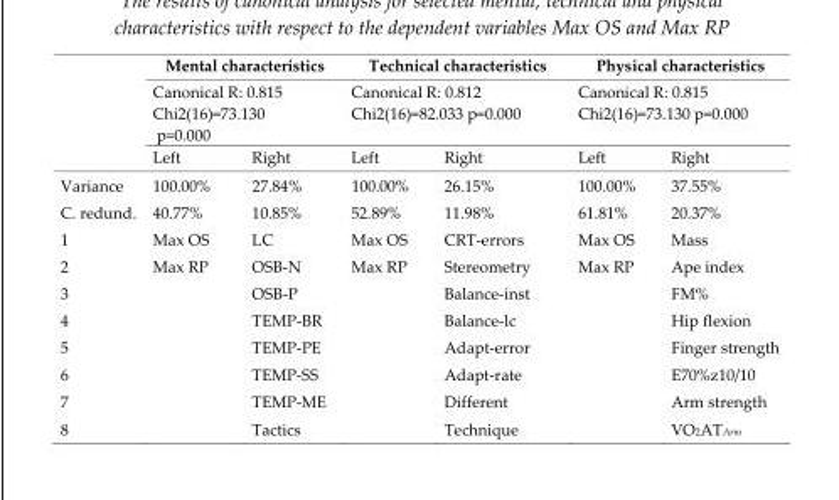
<table><thead><tr><td rowspan="3"></td><td rowspan="2" colspan="2">Mental characteristics Canonical R: 0.815 Chi2(16)=73.130 p=0.000</td><td rowspan="2" colspan="2">Technical characteristics Canonical R: 0.812 Chi2(16)=82.033 p=0.000</td><td rowspan="2" colspan="2">Physical characteristics Canonical R: 0.815 Chi2(16)=73.130 p=0.000</td></tr><tr></tr><tr><td>Left</td><td>Right</td><td>Left</td><td>Right</td><td>Left</td><td>Right</td></tr></thead><tbody><tr><td>Variance</td><td>100.00%</td><td>27.84%</td><td>100.00%</td><td>26.15%</td><td>100.00%</td><td>37.55%</td></tr><tr><td>C. redund.</td><td>40.77%</td><td>10.85%</td><td>52.89%</td><td>11.98%</td><td>61.81%</td><td>20.37%</td></tr><tr><td>1</td><td>Max OS</td><td>LC</td><td>Max OS</td><td>CRT-errors</td><td>Max OS</td><td>Mass</td></tr><tr><td>2</td><td>Max RP</td><td>OSB-N</td><td>Max RP</td><td>Stereometry</td><td>Max RP</td><td>Ape index</td></tr><tr><td>3</td><td></td><td>OSB-P</td><td></td><td>Balance-inst</td><td></td><td>FM%</td></tr><tr><td>4</td><td></td><td>TEMP-BR</td><td></td><td>Balance-lc</td><td></td><td>Hip flexion</td></tr><tr><td>5</td><td></td><td>TEMP-PE</td><td></td><td>Adapt-error</td><td></td><td>Finger strength</td></tr><tr><td>6</td><td></td><td>TEMP-SS</td><td></td><td>Adapt-rate</td><td></td><td>E70%z10/10</td></tr><tr><td>7</td><td></td><td>TEMP-ME</td><td></td><td>Different</td><td></td><td>Arm strength</td></tr><tr><td>8</td><td></td><td>Tactics</td><td></td><td>Technique</td><td></td><td>VO<sub>2</sub>AT<sub>Arm</sub></td></tr></tbody></table>